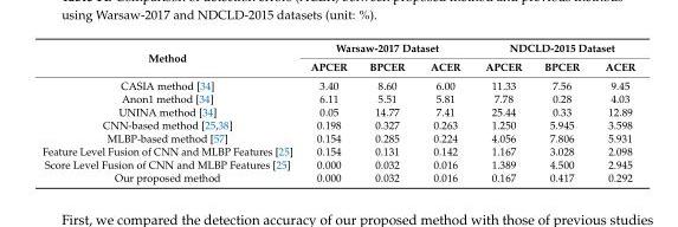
<table><thead><tr><td rowspan="2">Method</td><td colspan="3">Warsaw-2017 Dataset</td><td colspan="3">NDCLD-2015 Dataset</td></tr><tr><td>APCER</td><td>BPCER</td><td>ACER</td><td>APCER</td><td>BPCER</td><td>ACER</td></tr></thead><tbody><tr><td>CASIA method [34]</td><td>3.40</td><td>8.60</td><td>6.00</td><td>11.33</td><td>7.56</td><td>9.45</td></tr><tr><td>Anon1 method [34]</td><td>6.11</td><td>5.51</td><td>5.81</td><td>7.78</td><td>0.28</td><td>4.03</td></tr><tr><td>UNINA method [34]</td><td>0.05</td><td>14.77</td><td>7.41</td><td>25.44</td><td>0.33</td><td>12.89</td></tr><tr><td>CNN-based method [25,38]</td><td>0.198</td><td>0.327</td><td>0.263</td><td>1.250</td><td>5.945</td><td>3.598</td></tr><tr><td>MLBP-based method [57]</td><td>0.154</td><td>0.285</td><td>0.224</td><td>4.056</td><td>7.806</td><td>5.931</td></tr><tr><td>Feature Level Fusion of CNN and MLBP Features [25]</td><td>0.154</td><td>0.131</td><td>0.142</td><td>1.167</td><td>3.028</td><td>2.098</td></tr><tr><td>Score Level Fusion of CNN and MLBP Features [25]</td><td>0.000</td><td>0.032</td><td>0.016</td><td>1.389</td><td>4.500</td><td>2.945</td></tr><tr><td>Our proposed method</td><td>0.000</td><td>0.032</td><td>0.016</td><td>0.167</td><td>0.417</td><td>0.292</td></tr></tbody></table>